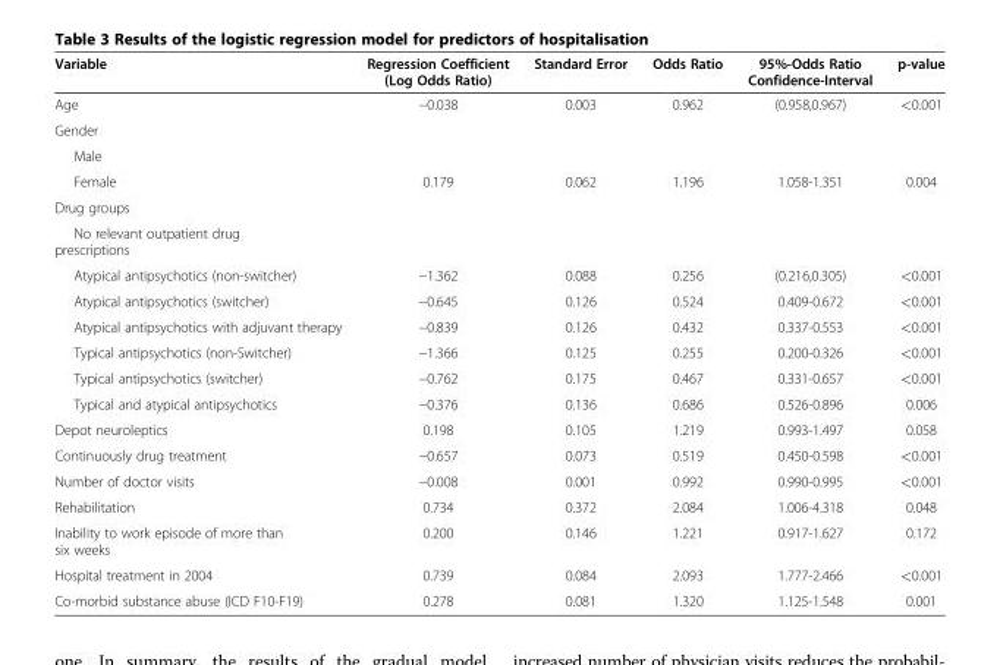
<table><thead><tr><td>Variable</td><td>Regression Coefficient (Log Odds Ratio)</td><td>Standard Error</td><td>Odds Ratio</td><td>95%-Odds Ratio Confidence-Interval</td><td>p-value</td></tr></thead><tbody><tr><td>Age</td><td>−0.038</td><td>0.003</td><td>0.962</td><td>(0.958,0.967)</td><td>&lt;0.001</td></tr><tr><td colspan="6">Gender</td></tr><tr><td colspan="6">Male</td></tr><tr><td>Female</td><td>0.179</td><td>0.062</td><td>1.196</td><td>1.058-1.351</td><td>0.004</td></tr><tr><td colspan="6">Drug groups</td></tr><tr><td colspan="6">No relevant outpatient drug prescriptions</td></tr><tr><td>Atypical antipsychotics (non-switcher)</td><td>−1.362</td><td>0.088</td><td>0.256</td><td>(0.216,0.305)</td><td>&lt;0.001</td></tr><tr><td>Atypical antipsychotics (switcher)</td><td>−0.645</td><td>0.126</td><td>0.524</td><td>0.409-0.672</td><td>&lt;0.001</td></tr><tr><td>Atypical antipsychotics with adjuvant therapy</td><td>−0.839</td><td>0.126</td><td>0.432</td><td>0.337-0.553</td><td>&lt;0.001</td></tr><tr><td>Typical antipsychotics (non-Switcher)</td><td>−1.366</td><td>0.125</td><td>0.255</td><td>0.200-0.326</td><td>&lt;0.001</td></tr><tr><td>Typical antipsychotics (switcher)</td><td>−0.762</td><td>0.175</td><td>0.467</td><td>0.331-0.657</td><td>&lt;0.001</td></tr><tr><td>Typical and atypical antipsychotics</td><td>−0.376</td><td>0.136</td><td>0.686</td><td>0.526-0.896</td><td>0.006</td></tr><tr><td>Depot neuroleptics</td><td>0.198</td><td>0.105</td><td>1.219</td><td>0.993-1.497</td><td>0.058</td></tr><tr><td>Continuously drug treatment</td><td>−0.657</td><td>0.073</td><td>0.519</td><td>0.450-0.598</td><td>&lt;0.001</td></tr><tr><td>Number of doctor visits</td><td>−0.008</td><td>0.001</td><td>0.992</td><td>0.990-0.995</td><td>&lt;0.001</td></tr><tr><td>Rehabilitation</td><td>0.734</td><td>0.372</td><td>2.084</td><td>1.006-4.318</td><td>0.048</td></tr><tr><td>Inability to work episode of more than six weeks</td><td>0.200</td><td>0.146</td><td>1.221</td><td>0.917-1.627</td><td>0.172</td></tr><tr><td>Hospital treatment in 2004</td><td>0.739</td><td>0.084</td><td>2.093</td><td>1.777-2.466</td><td>&lt;0.001</td></tr><tr><td>Co-morbid substance abuse (ICD F10-F19)</td><td>0.278</td><td>0.081</td><td>1.320</td><td>1.125-1.548</td><td>0.001</td></tr></tbody></table>